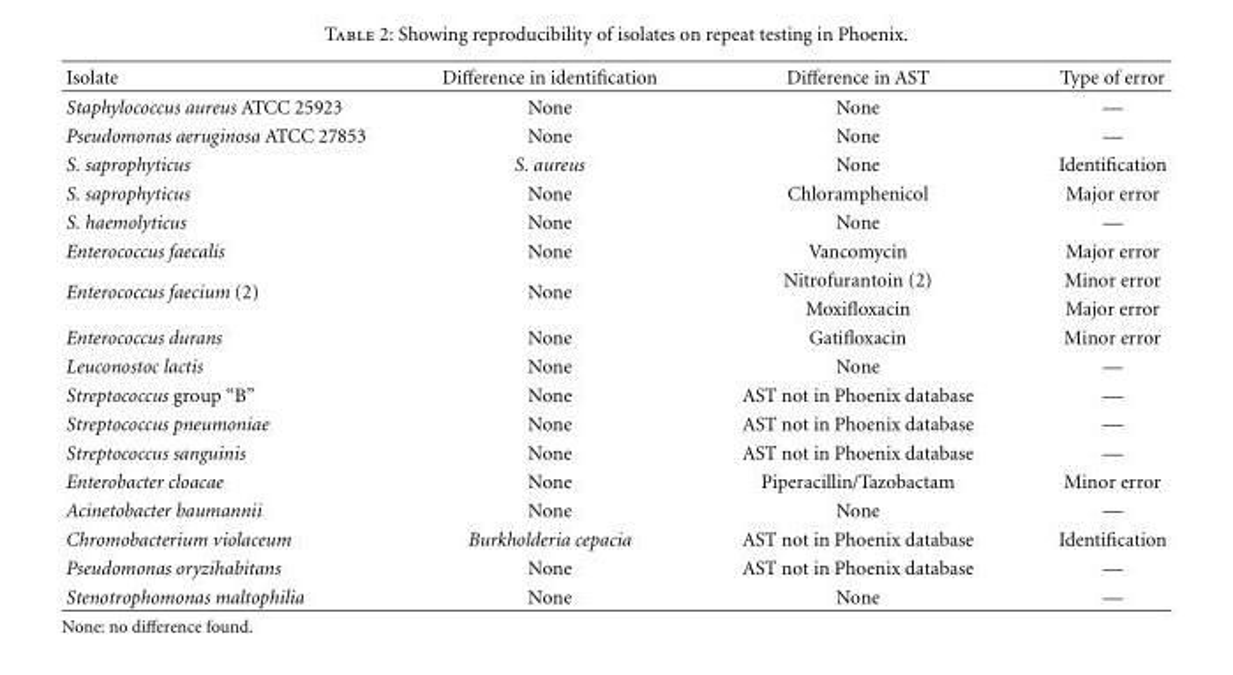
<table><thead><tr><td>Isolate</td><td>Difference in identification</td><td>Difference in AST</td><td>Type of error</td></tr></thead><tbody><tr><td>Staphylococcus aureus ATCC 25923</td><td>None</td><td>None</td><td>—</td></tr><tr><td>Pseudomonas aeruginosa ATCC 27853</td><td>None</td><td>None</td><td>—</td></tr><tr><td>S. saprophyticus</td><td>S. aureus</td><td>None</td><td>Identification</td></tr><tr><td>S. saprophyticus</td><td>None</td><td>Chloramphenicol</td><td>Major error</td></tr><tr><td>S. haemolyticus</td><td>None</td><td>None</td><td>—</td></tr><tr><td>Enterococcus faecalis</td><td>None</td><td>Vancomycin</td><td>Major error</td></tr><tr><td rowspan="2">Enterococcus faecium (2)</td><td rowspan="2">None</td><td>Nitrofurantoin (2)</td><td>Minor error</td></tr><tr><td>Moxifloxacin</td><td>Major error</td></tr><tr><td>Enterococcus durans</td><td>None</td><td>Gatifloxacin</td><td>Minor error</td></tr><tr><td>Leuconostoc lactis</td><td>None</td><td>None</td><td>—</td></tr><tr><td>Streptococcus group “B”</td><td>None</td><td>AST not in Phoenix database</td><td>—</td></tr><tr><td>Streptococcus pneumoniae</td><td>None</td><td>AST not in Phoenix database</td><td>—</td></tr><tr><td>Streptococcus sanguinis</td><td>None</td><td>AST not in Phoenix database</td><td>—</td></tr><tr><td>Enterobacter cloacae</td><td>None</td><td>Piperacillin/Tazobactam</td><td>Minor error</td></tr><tr><td>Acinetobacter baumannii</td><td>None</td><td>None</td><td>—</td></tr><tr><td>Chromobacterium violaceum</td><td>Burkholderia cepacia</td><td>AST not in Phoenix database</td><td>Identification</td></tr><tr><td>Pseudomonas oryzihabitans</td><td>None</td><td>AST not in Phoenix database</td><td>—</td></tr><tr><td>Stenotrophomonas maltophilia</td><td>None</td><td>None</td><td>—</td></tr></tbody></table>